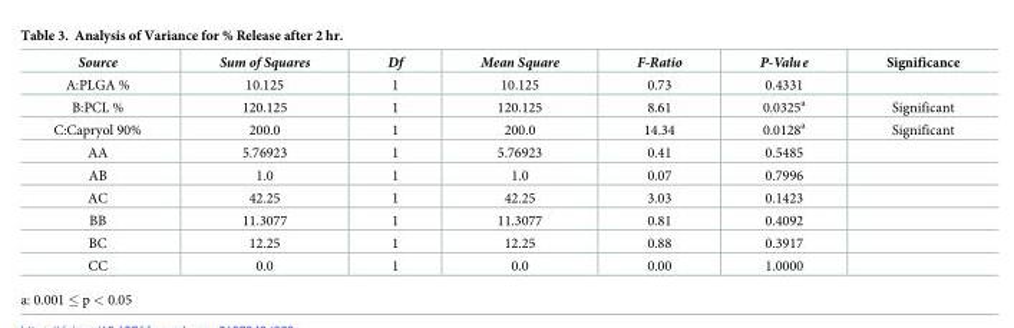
<table><thead><tr><td>Source</td><td>Sum of Squares</td><td>Df</td><td>Mean Square</td><td>F-Ratio</td><td>P-Value</td><td>Significance</td></tr></thead><tbody><tr><td>A:PLGA %</td><td>10.125</td><td>1</td><td>10.125</td><td>0.73</td><td>0.4331</td><td></td></tr><tr><td>B:PCL %</td><td>120.125</td><td>1</td><td>120.125</td><td>8.61</td><td>0.0325<sup>a</sup></td><td>Significant</td></tr><tr><td>C:Capryol 90%</td><td>200.0</td><td>1</td><td>200.0</td><td>14.34</td><td>0.0128<sup>a</sup></td><td>Significant</td></tr><tr><td>AA</td><td>5.76923</td><td>1</td><td>5.76923</td><td>0.41</td><td>0.5485</td><td></td></tr><tr><td>AB</td><td>1.0</td><td>1</td><td>1.0</td><td>0.07</td><td>0.7996</td><td></td></tr><tr><td>AC</td><td>42.25</td><td>1</td><td>42.25</td><td>3.03</td><td>0.1423</td><td></td></tr><tr><td>BB</td><td>11.3077</td><td>1</td><td>11.3077</td><td>0.81</td><td>0.4092</td><td></td></tr><tr><td>BC</td><td>12.25</td><td>1</td><td>12.25</td><td>0.88</td><td>0.3917</td><td></td></tr><tr><td>CC</td><td>0.0</td><td>1</td><td>0.0</td><td>0.00</td><td>1.0000</td><td></td></tr></tbody></table>